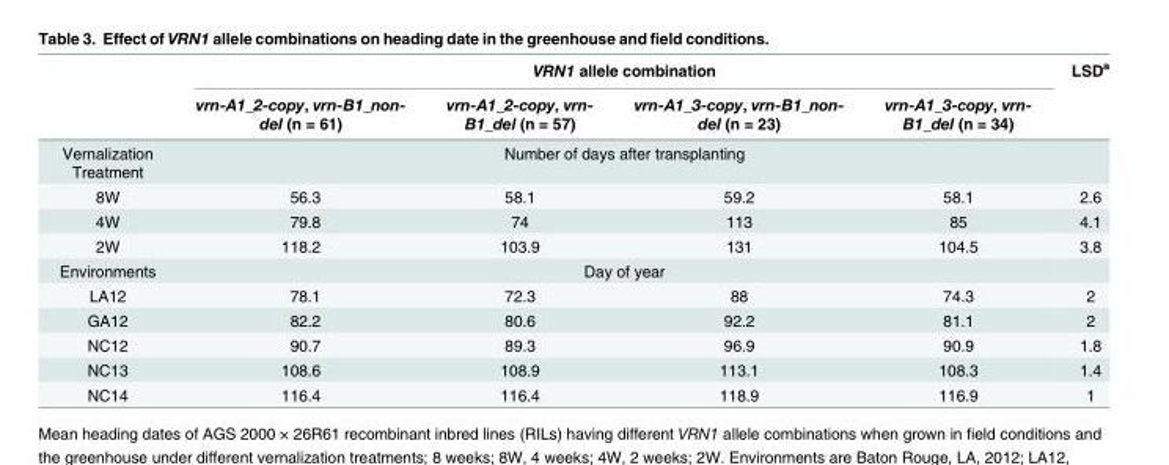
<table><thead><tr><td rowspan="2"></td><td colspan="4">VRN1 allele combination</td><td rowspan="2">LSD<sup>a</sup></td></tr><tr><td>vrn-A1_2-copy, vrn-B1_non- del (n = 61)</td><td>vrn-A1_2-copy, vrn- B1_del (n = 57)</td><td>vrn-A1_3-copy, vrn-B1_non- del (n = 23)</td><td>vrn-A1_3-copy, vrn- B1_del (n = 34)</td></tr></thead><tbody><tr><td>Vernalization Treatment</td><td colspan="4">Number of days after transplanting</td><td></td></tr><tr><td>8W</td><td>56.3</td><td>58.1</td><td>59.2</td><td>58.1</td><td>2.6</td></tr><tr><td>4W</td><td>79.8</td><td>74</td><td>113</td><td>85</td><td>4.1</td></tr><tr><td>2W</td><td>118.2</td><td>103.9</td><td>131</td><td>104.5</td><td>3.8</td></tr><tr><td>Environments</td><td colspan="4">Day of year</td><td></td></tr><tr><td>LA12</td><td>78.1</td><td>72.3</td><td>88</td><td>74.3</td><td>2</td></tr><tr><td>GA12</td><td>82.2</td><td>80.6</td><td>92.2</td><td>81.1</td><td>2</td></tr><tr><td>NC12</td><td>90.7</td><td>89.3</td><td>96.9</td><td>90.9</td><td>1.8</td></tr><tr><td>NC13</td><td>108.6</td><td>108.9</td><td>113.1</td><td>108.3</td><td>1.4</td></tr><tr><td>NC14</td><td>116.4</td><td>116.4</td><td>118.9</td><td>116.9</td><td>1</td></tr></tbody></table>